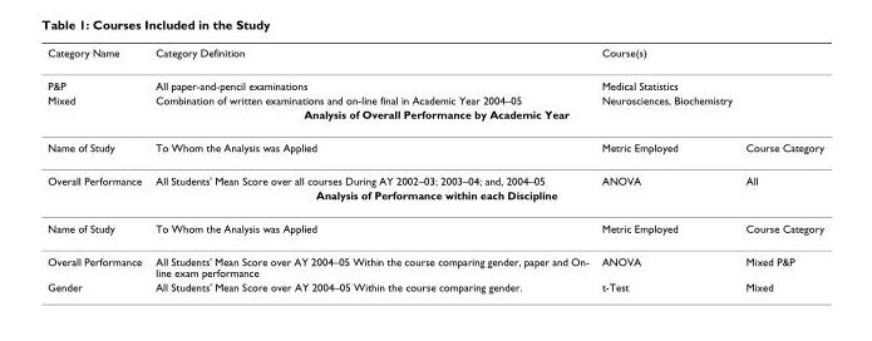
<table><thead><tr><td>Category Name</td><td>Category Definition</td><td>Course(s)</td><td></td></tr></thead><tbody><tr><td>P&amp;P</td><td>All paper-and-pencil examinations</td><td>Medical Statistics</td><td></td></tr><tr><td>Mixed</td><td>Combination of written examinations and on-line final in Academic Year 2004–05</td><td>Neurosciences, Biochemistry</td><td></td></tr><tr><td colspan="4">Analysis of Overall Performance by Academic Year</td></tr><tr><td>Name of Study</td><td>To Whom the Analysis was Applied</td><td>Metric Employed</td><td>Course Category</td></tr><tr><td>Overall Performance</td><td>All Students&#x27; Mean Score over all courses During AY 2002–03; 2003–04; and, 2004–05</td><td>ANOVA</td><td>All</td></tr><tr><td colspan="4">Analysis of Performance within each Discipline</td></tr><tr><td>Name of Study</td><td>To Whom the Analysis was Applied</td><td>Metric Employed</td><td>Course Category</td></tr><tr><td>Overall Performance</td><td>All Students&#x27; Mean Score over AY 2004–05 Within the course comparing gender, paper and On- line exam performance</td><td>ANOVA</td><td>Mixed P&amp;P</td></tr><tr><td>Gender</td><td>All Students&#x27; Mean Score over AY 2004–05 Within the course comparing gender.</td><td>t-Test</td><td>Mixed</td></tr></tbody></table>